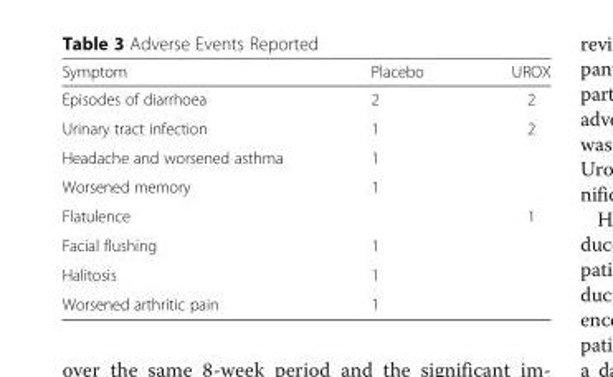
<table><thead><tr><td>Symptom</td><td>Placebo</td><td>UROX</td></tr></thead><tbody><tr><td>Episodes of diarrhoea</td><td>2</td><td>2</td></tr><tr><td>Urinary tract infection</td><td>1</td><td>2</td></tr><tr><td>Headache and worsened asthma</td><td>1</td><td></td></tr><tr><td>Worsened memory</td><td>1</td><td></td></tr><tr><td>Flatulence</td><td></td><td>1</td></tr><tr><td>Facial flushing</td><td>1</td><td></td></tr><tr><td>Halitosis</td><td>1</td><td></td></tr><tr><td>Worsened arthritic pain</td><td>1</td><td></td></tr></tbody></table>